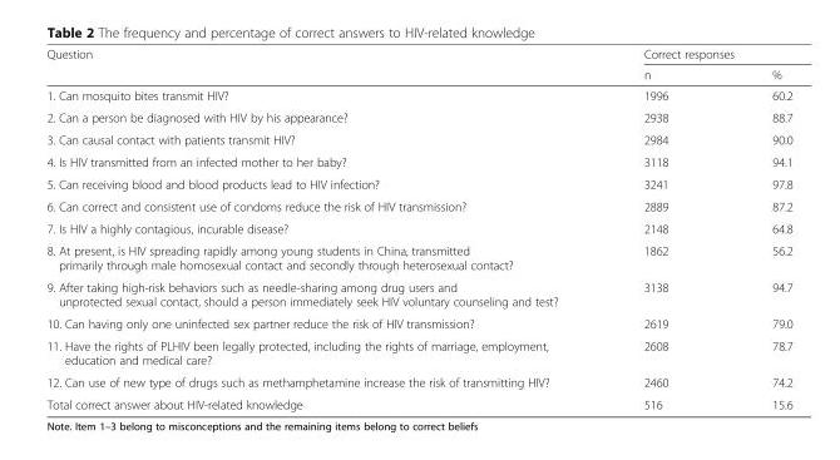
<table><thead><tr><td rowspan="2">Question</td><td colspan="2">Correct responses</td></tr><tr><td>n</td><td>%</td></tr></thead><tbody><tr><td>1. Can mosquito bites transmit HIV?</td><td>1996</td><td>60.2</td></tr><tr><td>2. Can a person be diagnosed with HIV by his appearance?</td><td>2938</td><td>88.7</td></tr><tr><td>3. Can causal contact with patients transmit HIV?</td><td>2984</td><td>90.0</td></tr><tr><td>4. Is HIV transmitted from an infected mother to her baby?</td><td>3118</td><td>94.1</td></tr><tr><td>5. Can receiving blood and blood products lead to HIV infection?</td><td>3241</td><td>97.8</td></tr><tr><td>6. Can correct and consistent use of condoms reduce the risk of HIV transmission?</td><td>2889</td><td>87.2</td></tr><tr><td>7. Is HIV a highly contagious, incurable disease?</td><td>2148</td><td>64.8</td></tr><tr><td>8. At present, is HIV spreading rapidly among young students in China, transmitted primarily through male homosexual contact and secondly through heterosexual contact?</td><td>1862</td><td>56.2</td></tr><tr><td>9. After taking high-risk behaviors such as needle-sharing among drug users and unprotected sexual contact, should a person immediately seek HIV voluntary counseling and test?</td><td>3138</td><td>94.7</td></tr><tr><td>10. Can having only one uninfected sex partner reduce the risk of HIV transmission?</td><td>2619</td><td>79.0</td></tr><tr><td>11. Have the rights of PLHIV been legally protected, including the rights of marriage, employment, education and medical care?</td><td>2608</td><td>78.7</td></tr><tr><td>12. Can use of new type of drugs such as methamphetamine increase the risk of transmitting HIV?</td><td>2460</td><td>74.2</td></tr><tr><td>Total correct answer about HIV-related knowledge</td><td>516</td><td>15.6</td></tr></tbody></table>